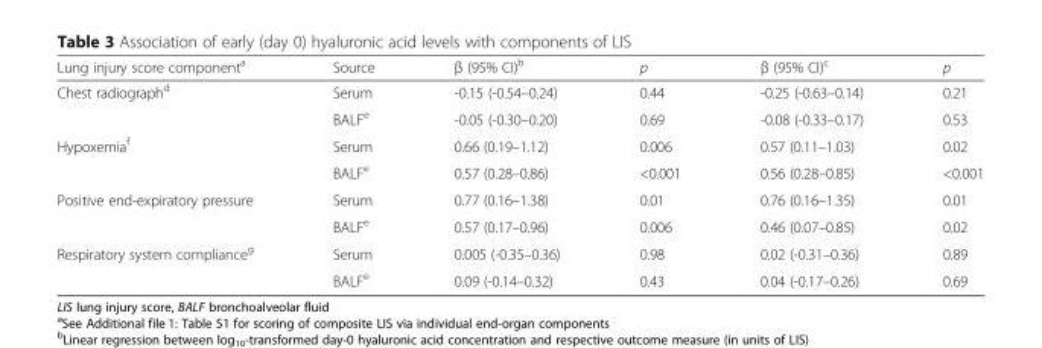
<table><thead><tr><td>Lung injury score component<sup>a</sup></td><td>Source</td><td>β (95% CI)<sup>b</sup></td><td>p</td><td>β (95% CI)<sup>c</sup></td><td>p</td></tr></thead><tbody><tr><td rowspan="2">Chest radiograph<sup>d</sup></td><td>Serum</td><td>-0.15 (-0.54–0.24)</td><td>0.44</td><td>-0.25 (-0.63–0.14)</td><td>0.21</td></tr><tr><td>BALF<sup>e</sup></td><td>-0.05 (-0.30–0.20)</td><td>0.69</td><td>-0.08 (-0.33–0.17)</td><td>0.53</td></tr><tr><td rowspan="2">Hypoxemia<sup>f</sup></td><td>Serum</td><td>0.66 (0.19–1.12)</td><td>0.006</td><td>0.57 (0.11–1.03)</td><td>0.02</td></tr><tr><td>BALF<sup>e</sup></td><td>0.57 (0.28–0.86)</td><td>&lt;0.001</td><td>0.56 (0.28–0.85)</td><td>&lt;0.001</td></tr><tr><td rowspan="2">Positive end-expiratory pressure</td><td>Serum</td><td>0.77 (0.16–1.38)</td><td>0.01</td><td>0.76 (0.16–1.35)</td><td>0.01</td></tr><tr><td>BALF<sup>e</sup></td><td>0.57 (0.17–0.96)</td><td>0.006</td><td>0.46 (0.07–0.85)</td><td>0.02</td></tr><tr><td rowspan="2">Respiratory system compliance<sup>g</sup></td><td>Serum</td><td>0.005 (-0.35–0.36)</td><td>0.98</td><td>0.02 (-0.31–0.36)</td><td>0.89</td></tr><tr><td>BALF<sup>e</sup></td><td>0.09 (-0.14–0.32)</td><td>0.43</td><td>0.04 (-0.17–0.26)</td><td>0.69</td></tr></tbody></table>